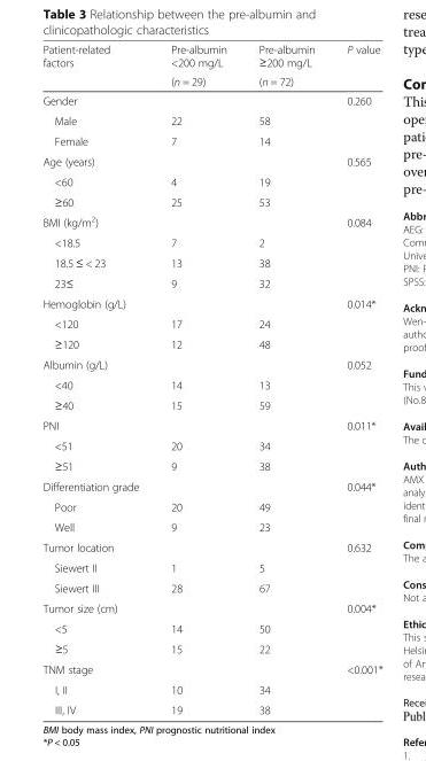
<table><thead><tr><td rowspan="2">Patient-related factors</td><td rowspan="2">Pre-albumin &lt;200 mg/L (n = 29)</td><td rowspan="2">Pre-albumin ≥200 mg/L (n = 72)</td><td rowspan="2">P value</td></tr><tr></tr></thead><tbody><tr><td>Gender</td><td></td><td></td><td>0.260</td></tr><tr><td>Male</td><td>22</td><td>58</td><td></td></tr><tr><td>Female</td><td>7</td><td>14</td><td></td></tr><tr><td>Age (years)</td><td></td><td></td><td>0.565</td></tr><tr><td>&lt;60</td><td>4</td><td>19</td><td></td></tr><tr><td>≥60</td><td>25</td><td>53</td><td></td></tr><tr><td>BMI (kg/m<sup>2</sup>)</td><td></td><td></td><td>0.084</td></tr><tr><td>&lt;18.5</td><td>7</td><td>2</td><td></td></tr><tr><td>18.5 ≤ &lt; 23</td><td>13</td><td>38</td><td></td></tr><tr><td>23≤</td><td>9</td><td>32</td><td></td></tr><tr><td>Hemoglobin (g/L)</td><td></td><td></td><td>0.014*</td></tr><tr><td>&lt;120</td><td>17</td><td>24</td><td></td></tr><tr><td>≥120</td><td>12</td><td>48</td><td></td></tr><tr><td>Albumin (g/L)</td><td></td><td></td><td>0.052</td></tr><tr><td>&lt;40</td><td>14</td><td>13</td><td></td></tr><tr><td>≥40</td><td>15</td><td>59</td><td></td></tr><tr><td>PNI</td><td></td><td></td><td>0.011*</td></tr><tr><td>&lt;51</td><td>20</td><td>34</td><td></td></tr><tr><td>≥51</td><td>9</td><td>38</td><td></td></tr><tr><td>Differentiation grade</td><td></td><td></td><td>0.044*</td></tr><tr><td>Poor</td><td>20</td><td>49</td><td></td></tr><tr><td>Well</td><td>9</td><td>23</td><td></td></tr><tr><td>Tumor location</td><td></td><td></td><td>0.632</td></tr><tr><td>Siewert II</td><td>1</td><td>5</td><td></td></tr><tr><td>Siewert III</td><td>28</td><td>67</td><td></td></tr><tr><td>Tumor size (cm)</td><td></td><td></td><td>0.004*</td></tr><tr><td>&lt;5</td><td>14</td><td>50</td><td></td></tr><tr><td>≥5</td><td>15</td><td>22</td><td></td></tr><tr><td>TNM stage</td><td></td><td></td><td>&lt;0.001*</td></tr><tr><td>I, II</td><td>10</td><td>34</td><td></td></tr><tr><td>III, IV</td><td>19</td><td>38</td><td></td></tr></tbody></table>